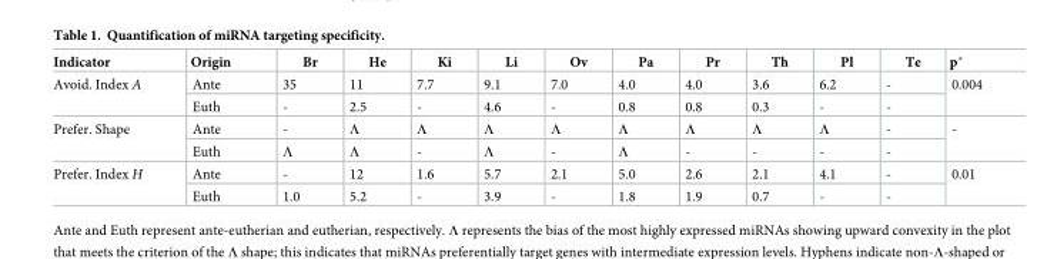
<table><thead><tr><td>Indicator</td><td>Origin</td><td>Br</td><td>He</td><td>Ki</td><td>Li</td><td>Ov</td><td>Pa</td><td>Pr</td><td>Th</td><td>Pl</td><td>Te</td><td>p*</td></tr></thead><tbody><tr><td rowspan="2">Avoid. Index A</td><td>Ante</td><td>35</td><td>11</td><td>7.7</td><td>9.1</td><td>7.0</td><td>4.0</td><td>4.0</td><td>3.6</td><td>6.2</td><td>-</td><td rowspan="2">0.004</td></tr><tr><td>Euth</td><td>-</td><td>2.5</td><td>-</td><td>4.6</td><td>-</td><td>0.8</td><td>0.8</td><td>0.3</td><td>-</td><td>-</td></tr><tr><td rowspan="2">Prefer. Shape</td><td>Ante</td><td>-</td><td>Λ</td><td>Λ</td><td>Λ</td><td>Λ</td><td>Λ</td><td>Λ</td><td>Λ</td><td>Λ</td><td>-</td><td rowspan="2">-</td></tr><tr><td>Euth</td><td>Λ</td><td>Λ</td><td>-</td><td>Λ</td><td>-</td><td>Λ</td><td>-</td><td>-</td><td>-</td><td>-</td></tr><tr><td rowspan="2">Prefer. Index H</td><td>Ante</td><td>-</td><td>12</td><td>1.6</td><td>5.7</td><td>2.1</td><td>5.0</td><td>2.6</td><td>2.1</td><td>4.1</td><td>-</td><td rowspan="2">0.01</td></tr><tr><td>Euth</td><td>1.0</td><td>5.2</td><td>-</td><td>3.9</td><td>-</td><td>1.8</td><td>1.9</td><td>0.7</td><td>-</td><td>-</td></tr></tbody></table>